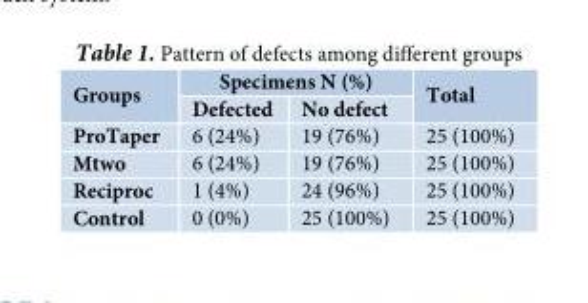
<table><thead><tr><td rowspan="2">Groups</td><td colspan="2">Specimens N (%)</td><td rowspan="2">Total</td></tr><tr><td>Defected</td><td>No defect</td></tr></thead><tbody><tr><td>ProTaper</td><td>6 (24%)</td><td>19 (76%)</td><td>25 (100%)</td></tr><tr><td>Mtwo</td><td>6 (24%)</td><td>19 (76%)</td><td>25 (100%)</td></tr><tr><td>Reciproc</td><td>1 (4%)</td><td>24 (96%)</td><td>25 (100%)</td></tr><tr><td>Control</td><td>0 (0%)</td><td>25 (100%)</td><td>25 (100%)</td></tr></tbody></table>